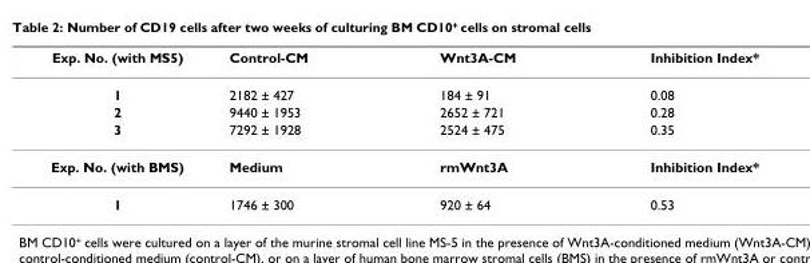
<table><thead><tr><td>Exp. No. (with MS5)</td><td>Control-CM</td><td>Wnt3A-CM</td><td>Inhibition Index*</td></tr></thead><tbody><tr><td>1</td><td>2182 ± 427</td><td>184 ± 91</td><td>0.08</td></tr><tr><td>2</td><td>9440 ± 1953</td><td>2652 ± 721</td><td>0.28</td></tr><tr><td>3</td><td>7292 ± 1928</td><td>2524 ± 475</td><td>0.35</td></tr><tr><td>Exp. No. (with BMS)</td><td>Medium</td><td>rmWnt3A</td><td>Inhibition Index*</td></tr><tr><td>1</td><td>1746 ± 300</td><td>920 ± 64</td><td>0.53</td></tr></tbody></table>